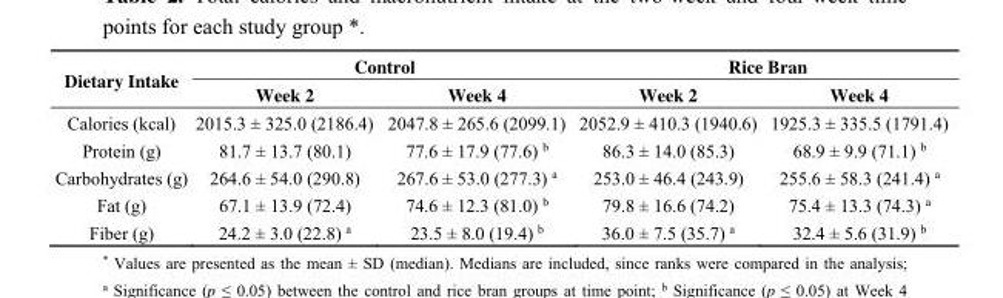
<table><thead><tr><td rowspan="2">Dietary Intake</td><td colspan="2">Control</td><td colspan="2">Rice Bran</td></tr><tr><td>Week 2</td><td>Week 4</td><td>Week 2</td><td>Week 4</td></tr></thead><tbody><tr><td>Calories (kcal)</td><td>2015.3 ± 325.0 (2186.4)</td><td>2047.8 ± 265.6 (2099.1)</td><td>2052.9 ± 410.3 (1940.6)</td><td>1925.3 ± 335.5 (1791.4)</td></tr><tr><td>Protein (g)</td><td>81.7 ± 13.7 (80.1)</td><td>77.6 ± 17.9 (77.6) <sup>b</sup></td><td>86.3 ± 14.0 (85.3)</td><td>68.9 ± 9.9 (71.1) <sup>b</sup></td></tr><tr><td>Carbohydrates (g)</td><td>264.6 ± 54.0 (290.8)</td><td>267.6 ± 53.0 (277.3) <sup>a</sup></td><td>253.0 ± 46.4 (243.9)</td><td>255.6 ± 58.3 (241.4) <sup>a</sup></td></tr><tr><td>Fat (g)</td><td>67.1 ± 13.9 (72.4)</td><td>74.6 ± 12.3 (81.0) <sup>b</sup></td><td>79.8 ± 16.6 (74.2)</td><td>75.4 ± 13.3 (74.3) <sup>a</sup></td></tr><tr><td>Fiber (g)</td><td>24.2 ± 3.0 (22.8) <sup>a</sup></td><td>23.5 ± 8.0 (19.4) <sup>b</sup></td><td>36.0 ± 7.5 (35.7) <sup>a</sup></td><td>32.4 ± 5.6 (31.9) <sup>b</sup></td></tr></tbody></table>